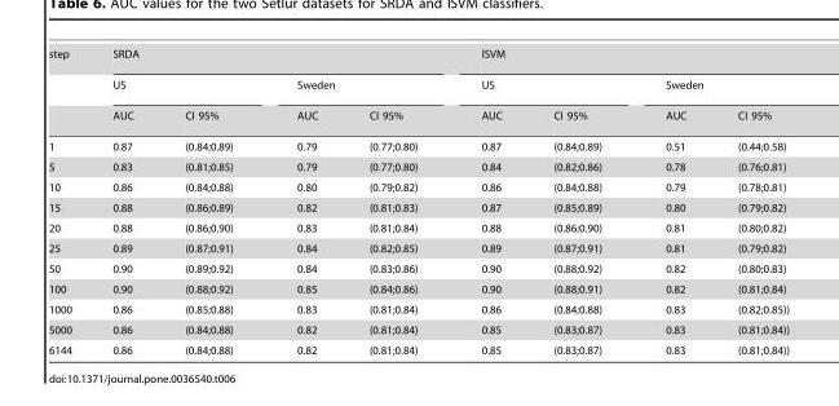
<table><tbody><tr><td rowspan="3">step</td><td colspan="4">SRDA</td><td colspan="4">lSVM</td></tr><tr><td colspan="2">US</td><td colspan="2">Sweden</td><td colspan="2">US</td><td colspan="2">Sweden</td></tr><tr><td>AUC</td><td>CI 95%</td><td>AUC</td><td>CI 95%</td><td>AUC</td><td>CI 95%</td><td>AUC</td><td>CI 95%</td></tr><tr><td>1</td><td>0.87</td><td>(0.84;0.89)</td><td>0.79</td><td>(0.77;0.80)</td><td>0.87</td><td>(0.84;0.89)</td><td>0.51</td><td>(0.44;0.58)</td></tr><tr><td>5</td><td>0.83</td><td>(0.81;0.85)</td><td>0.79</td><td>(0.77;0.80)</td><td>0.84</td><td>(0.82;0.86)</td><td>0.78</td><td>(0.76;0.81)</td></tr><tr><td>10</td><td>0.86</td><td>(0.84;0.88)</td><td>0.80</td><td>(0.79;0.82)</td><td>0.86</td><td>(0.84;0.88)</td><td>0.79</td><td>(0.78;0.81)</td></tr><tr><td>15</td><td>0.88</td><td>(0.86;0.89)</td><td>0.82</td><td>(0.81;0.83)</td><td>0.87</td><td>(0.85;0.89)</td><td>0.80</td><td>(0.79;0.82)</td></tr><tr><td>20</td><td>0.88</td><td>(0.86;0.90)</td><td>0.83</td><td>(0.81;0.84)</td><td>0.88</td><td>(0.86;0.90)</td><td>0.81</td><td>(0.80;0.82)</td></tr><tr><td>25</td><td>0.89</td><td>(0.87;0.91)</td><td>0.84</td><td>(0.82;0.85)</td><td>0.89</td><td>(0.87;0.91)</td><td>0.81</td><td>(0.79;0.82)</td></tr><tr><td>50</td><td>0.90</td><td>(0.89;0.92)</td><td>0.84</td><td>(0.83;0.86)</td><td>0.90</td><td>(0.88;0.92)</td><td>0.82</td><td>(0.80;0.83)</td></tr><tr><td>100</td><td>0.90</td><td>(0.88;0.92)</td><td>0.85</td><td>(0.84;0.86)</td><td>0.90</td><td>(0.88;0.91)</td><td>0.82</td><td>(0.81;0.84)</td></tr><tr><td>1000</td><td>0.86</td><td>(0.85;0.88)</td><td>0.83</td><td>(0.81;0.84)</td><td>0.86</td><td>(0.84;0.88)</td><td>0.83</td><td>(0.82;0.85))</td></tr><tr><td>5000</td><td>0.86</td><td>(0.84;0.88)</td><td>0.82</td><td>(0.81;0.84)</td><td>0.85</td><td>(0.83;0.87)</td><td>0.83</td><td>(0.81;0.84))</td></tr><tr><td>6144</td><td>0.86</td><td>(0.84;0.88)</td><td>0.82</td><td>(0.81;0.84)</td><td>0.85</td><td>(0.83;0.87)</td><td>0.83</td><td>(0.81;0.84))</td></tr></tbody></table>